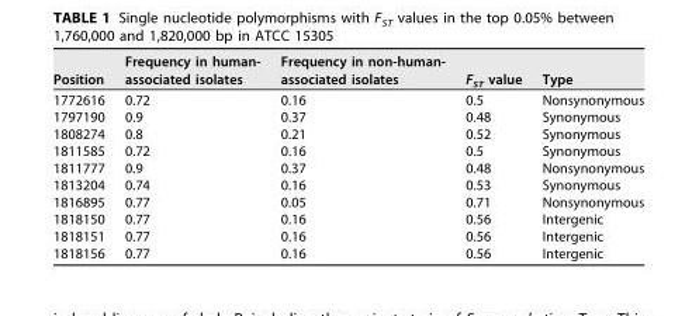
<table><thead><tr><td>Position</td><td>Frequency in human- associated isolates</td><td>Frequency in non-human- associated isolates</td><td>F<sub>ST</sub> value</td><td>Type</td></tr></thead><tbody><tr><td>1772616</td><td>0.72</td><td>0.16</td><td>0.5</td><td>Nonsynonymous</td></tr><tr><td>1797190</td><td>0.9</td><td>0.37</td><td>0.48</td><td>Synonymous</td></tr><tr><td>1808274</td><td>0.8</td><td>0.21</td><td>0.52</td><td>Synonymous</td></tr><tr><td>1811585</td><td>0.72</td><td>0.16</td><td>0.5</td><td>Synonymous</td></tr><tr><td>1811777</td><td>0.9</td><td>0.37</td><td>0.48</td><td>Nonsynonymous</td></tr><tr><td>1813204</td><td>0.74</td><td>0.16</td><td>0.53</td><td>Synonymous</td></tr><tr><td>1816895</td><td>0.77</td><td>0.05</td><td>0.71</td><td>Nonsynonymous</td></tr><tr><td>1818150</td><td>0.77</td><td>0.16</td><td>0.56</td><td>Intergenic</td></tr><tr><td>1818151</td><td>0.77</td><td>0.16</td><td>0.56</td><td>Intergenic</td></tr><tr><td>1818156</td><td>0.77</td><td>0.16</td><td>0.56</td><td>Intergenic</td></tr></tbody></table>